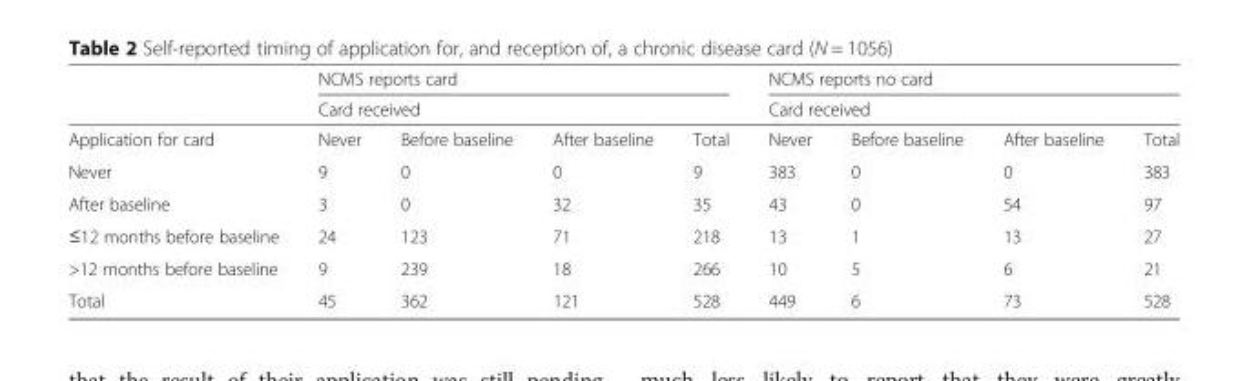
<table><thead><tr><td rowspan="3">Application for card</td><td rowspan="2" colspan="4">NCMS reports card Card received</td><td rowspan="2" colspan="4">NCMS reports no card Card received</td></tr><tr></tr><tr><td>Never</td><td>Before baseline</td><td>After baseline</td><td>Total</td><td>Never</td><td>Before baseline</td><td>After baseline</td><td>Total</td></tr></thead><tbody><tr><td>Never</td><td>9</td><td>0</td><td>0</td><td>9</td><td>383</td><td>0</td><td>0</td><td>383</td></tr><tr><td>After baseline</td><td>3</td><td>0</td><td>32</td><td>35</td><td>43</td><td>0</td><td>54</td><td>97</td></tr><tr><td>≤12 months before baseline</td><td>24</td><td>123</td><td>71</td><td>218</td><td>13</td><td>1</td><td>13</td><td>27</td></tr><tr><td>&gt;12 months before baseline</td><td>9</td><td>239</td><td>18</td><td>266</td><td>10</td><td>5</td><td>6</td><td>21</td></tr><tr><td>Total</td><td>45</td><td>362</td><td>121</td><td>528</td><td>449</td><td>6</td><td>73</td><td>528</td></tr></tbody></table>